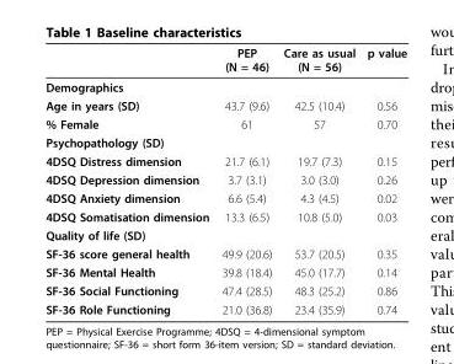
<table><thead><tr><td></td><td>PEP (N = 46)</td><td>Care as usual (N = 56)</td><td>p value</td></tr></thead><tbody><tr><td colspan="4">Demographics</td></tr><tr><td>Age in years (SD)</td><td>43.7 (9.6)</td><td>42.5 (10.4)</td><td>0.56</td></tr><tr><td>% Female</td><td>61</td><td>57</td><td>0.70</td></tr><tr><td colspan="4">Psychopathology (SD)</td></tr><tr><td>4DSQ Distress dimension</td><td>21.7 (6.1)</td><td>19.7 (7.3)</td><td>0.15</td></tr><tr><td>4DSQ Depression dimension</td><td>3.7 (3.1)</td><td>3.0 (3.0)</td><td>0.26</td></tr><tr><td>4DSQ Anxiety dimension</td><td>6.6 (5.4)</td><td>4.3 (4.5)</td><td>0.02</td></tr><tr><td>4DSQ Somatisation dimension</td><td>13.3 (6.5)</td><td>10.8 (5.0)</td><td>0.03</td></tr><tr><td colspan="4">Quality of life (SD)</td></tr><tr><td>SF-36 score general health</td><td>49.9 (20.6)</td><td>53.7 (20.5)</td><td>0.35</td></tr><tr><td>SF-36 Mental Health</td><td>39.8 (18.4)</td><td>45.0 (17.7)</td><td>0.14</td></tr><tr><td>SF-36 Social Functioning</td><td>47.4 (28.5)</td><td>48.3 (25.2)</td><td>0.86</td></tr><tr><td>SF-36 Role Functioning</td><td>21.0 (36.8)</td><td>23.4 (35.9)</td><td>0.74</td></tr></tbody></table>